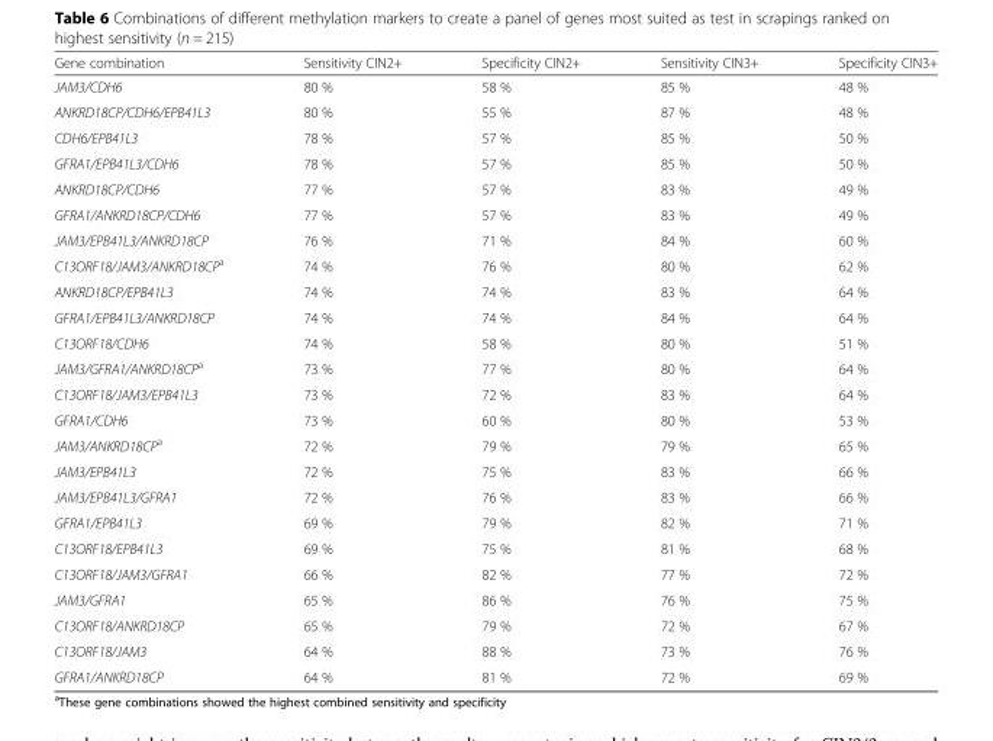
<table><thead><tr><td>Gene combination</td><td>Sensitivity CIN2+</td><td>Specificity CIN2+</td><td>Sensitivity CIN3+</td><td>Specificity CIN3+</td></tr></thead><tbody><tr><td>JAM3/CDH6</td><td>80 %</td><td>58 %</td><td>85 %</td><td>48 %</td></tr><tr><td>ANKRD18CP/CDH6/EPB41L3</td><td>80 %</td><td>55 %</td><td>87 %</td><td>48 %</td></tr><tr><td>CDH6/EPB41L3</td><td>78 %</td><td>57 %</td><td>85 %</td><td>50 %</td></tr><tr><td>GFRA1/EPB41L3/CDH6</td><td>78 %</td><td>57 %</td><td>85 %</td><td>50 %</td></tr><tr><td>ANKRD18CP/CDH6</td><td>77 %</td><td>57 %</td><td>83 %</td><td>49 %</td></tr><tr><td>GFRA1/ANKRD18CP/CDH6</td><td>77 %</td><td>57 %</td><td>83 %</td><td>49 %</td></tr><tr><td>JAM3/EPB41L3/ANKRD18CP</td><td>76 %</td><td>71 %</td><td>84 %</td><td>60 %</td></tr><tr><td>C13ORF18/JAM3/ANKRD18CP<sup>a</sup></td><td>74 %</td><td>76 %</td><td>80 %</td><td>62 %</td></tr><tr><td>ANKRD18CP/EPB41L3</td><td>74 %</td><td>74 %</td><td>83 %</td><td>64 %</td></tr><tr><td>GFRA1/EPB41L3/ANKRD18CP</td><td>74 %</td><td>74 %</td><td>84 %</td><td>64 %</td></tr><tr><td>C13ORF18/CDH6</td><td>74 %</td><td>58 %</td><td>80 %</td><td>51 %</td></tr><tr><td>JAM3/GFRA1/ANKRD18CP<sup>a</sup></td><td>73 %</td><td>77 %</td><td>80 %</td><td>64 %</td></tr><tr><td>C13ORF18/JAM3/EPB41L3</td><td>73 %</td><td>72 %</td><td>83 %</td><td>64 %</td></tr><tr><td>GFRA1/CDH6</td><td>73 %</td><td>60 %</td><td>80 %</td><td>53 %</td></tr><tr><td>JAM3/ANKRD18CP<sup>a</sup></td><td>72 %</td><td>79 %</td><td>79 %</td><td>65 %</td></tr><tr><td>JAM3/EPB41L3</td><td>72 %</td><td>75 %</td><td>83 %</td><td>66 %</td></tr><tr><td>JAM3/EPB41L3/GFRA1</td><td>72 %</td><td>76 %</td><td>83 %</td><td>66 %</td></tr><tr><td>GFRA1/EPB41L3</td><td>69 %</td><td>79 %</td><td>82 %</td><td>71 %</td></tr><tr><td>C13ORF18/EPB41L3</td><td>69 %</td><td>75 %</td><td>81 %</td><td>68 %</td></tr><tr><td>C13ORF18/JAM3/GFRA1</td><td>66 %</td><td>82 %</td><td>77 %</td><td>72 %</td></tr><tr><td>JAM3/GFRA1</td><td>65 %</td><td>86 %</td><td>76 %</td><td>75 %</td></tr><tr><td>C13ORF18/ANKRD18CP</td><td>65 %</td><td>79 %</td><td>72 %</td><td>67 %</td></tr><tr><td>C13ORF18/JAM3</td><td>64 %</td><td>88 %</td><td>73 %</td><td>76 %</td></tr><tr><td>GFRA1/ANKRD18CP</td><td>64 %</td><td>81 %</td><td>72 %</td><td>69 %</td></tr></tbody></table>